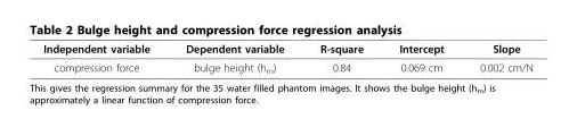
<table><thead><tr><td>Independent variable</td><td>Dependent variable</td><td>R-square</td><td>Intercept</td><td>Slope</td></tr></thead><tbody><tr><td>compression force</td><td>bulge height (h<sub>m</sub>)</td><td>0.84</td><td>0.069 cm</td><td>0.002 cm/N</td></tr></tbody></table>